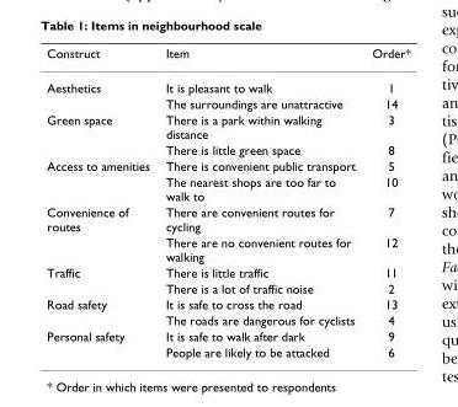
<table><thead><tr><td>Construct</td><td>Item</td><td>Order*</td></tr></thead><tbody><tr><td rowspan="2">Aesthetics</td><td>It is pleasant to walk</td><td>1</td></tr><tr><td>The surroundings are unattractive</td><td>14</td></tr><tr><td rowspan="2">Green space</td><td>There is a park within walking distance</td><td>3</td></tr><tr><td>There is little green space</td><td>8</td></tr><tr><td rowspan="2">Access to amenities</td><td>There is convenient public transport</td><td>5</td></tr><tr><td>The nearest shops are too far to walk to</td><td>10</td></tr><tr><td rowspan="2">Convenience of routes</td><td>There are convenient routes for cycling</td><td>7</td></tr><tr><td>There are no convenient routes for walking</td><td>12</td></tr><tr><td rowspan="2">Traffic</td><td>There is little traffic</td><td>11</td></tr><tr><td>There is a lot of traffic noise</td><td>2</td></tr><tr><td rowspan="2">Road safety</td><td>It is safe to cross the road</td><td>13</td></tr><tr><td>The roads are dangerous for cyclists</td><td>4</td></tr><tr><td rowspan="2">Personal safety</td><td>It is safe to walk after dark</td><td>9</td></tr><tr><td>People are likely to be attacked</td><td>6</td></tr></tbody></table>